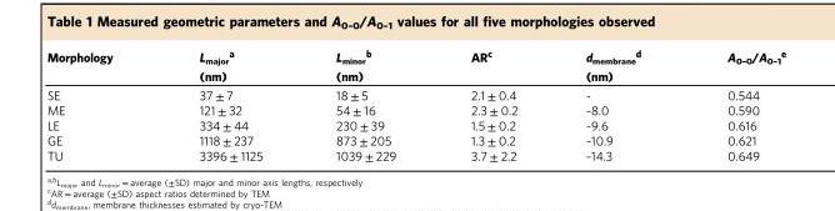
<table><thead><tr><td rowspan="2">Morphology</td><td rowspan="2">L<sub>major</sub><sup>a</sup> (nm)</td><td rowspan="2">L<sub>minor</sub><sup>b</sup> (nm)</td><td rowspan="2">AR<sup>c</sup></td><td rowspan="2">d<sub>membrane</sub><sup>d</sup> (nm)</td><td rowspan="2">A<sub>0–0</sub>/A<sub>0–1</sub><sup>e</sup></td></tr><tr></tr></thead><tbody><tr><td>SE</td><td>37 ± 7</td><td>18 ± 5</td><td>2.1 ± 0.4</td><td>-</td><td>0.544</td></tr><tr><td>ME</td><td>121 ± 32</td><td>54 ± 16</td><td>2.3 ± 0.2</td><td>~8.0</td><td>0.590</td></tr><tr><td>LE</td><td>334 ± 44</td><td>230 ± 39</td><td>1.5 ± 0.2</td><td>~9.6</td><td>0.616</td></tr><tr><td>GE</td><td>1118 ± 237</td><td>873 ± 205</td><td>1.3 ± 0.2</td><td>~10.9</td><td>0.621</td></tr><tr><td>TU</td><td>3396 ± 1125</td><td>1039 ± 229</td><td>3.7 ± 2.2</td><td>~14.3</td><td>0.649</td></tr></tbody></table>